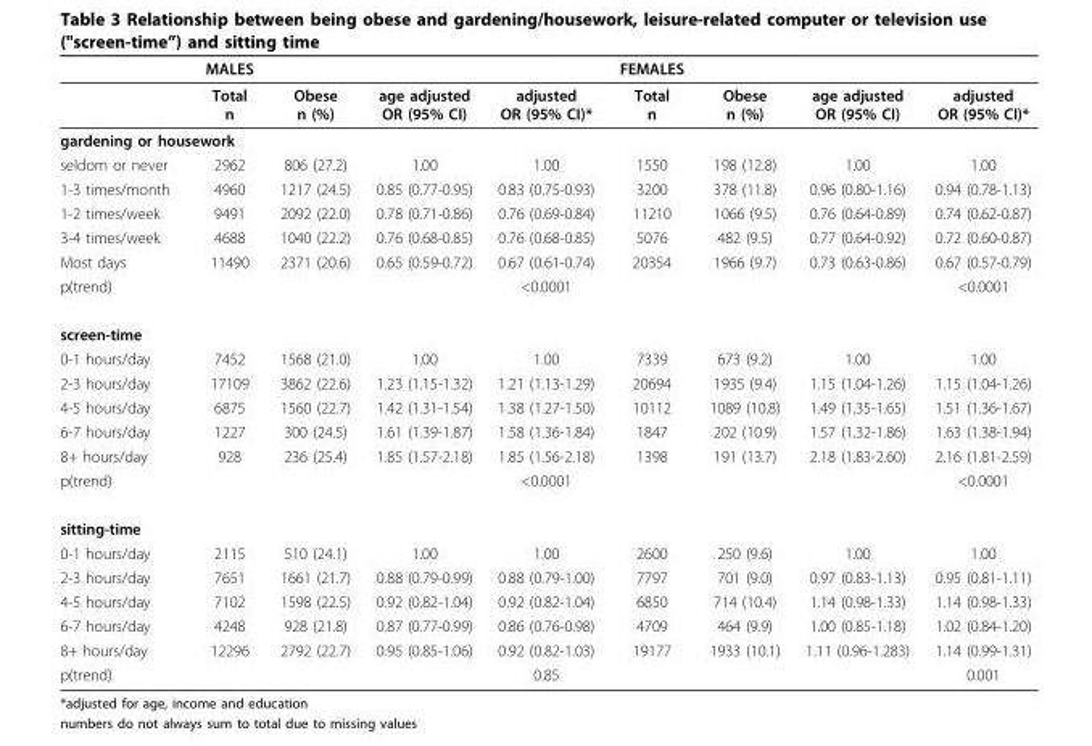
<table><thead><tr><td></td><td>MALES</td><td></td><td></td><td></td><td>FEMALES</td><td></td><td></td><td></td></tr></thead><tbody><tr><td></td><td>Total n</td><td>Obese n (%)</td><td>age adjusted OR (95% CI)</td><td>adjusted OR (95% CI)*</td><td>Total n</td><td>Obese n (%)</td><td>age adjusted OR (95% CI)</td><td>adjusted OR (95% CI)*</td></tr><tr><td colspan="9">gardening or housework</td></tr><tr><td>seldom or never</td><td>2962</td><td>806 (27.2)</td><td>1.00</td><td>1.00</td><td>1550</td><td>198 (12.8)</td><td>1.00</td><td>1.00</td></tr><tr><td>1-3 times/month</td><td>4960</td><td>1217 (24.5)</td><td>0.85 (0.77-0.95)</td><td>0.83 (0.75-0.93)</td><td>3200</td><td>378 (11.8)</td><td>0.96 (0.80-1.16)</td><td>0.94 (0.78-1.13)</td></tr><tr><td>1-2 times/week</td><td>9491</td><td>2092 (22.0)</td><td>0.78 (0.71-0.86)</td><td>0.76 (0.69-0.84)</td><td>11210</td><td>1066 (9.5)</td><td>0.76 (0.64-0.89)</td><td>0.74 (0.62-0.87)</td></tr><tr><td>3-4 times/week</td><td>4688</td><td>1040 (22.2)</td><td>0.76 (0.68-0.85)</td><td>0.76 (0.68-0.85)</td><td>5076</td><td>482 (9.5)</td><td>0.77 (0.64-0.92)</td><td>0.72 (0.60-0.87)</td></tr><tr><td>Most days</td><td>11490</td><td>2371 (20.6)</td><td>0.65 (0.59-0.72)</td><td>0.67 (0.61-0.74)</td><td>20354</td><td>1966 (9.7)</td><td>0.73 (0.63-0.86)</td><td>0.67 (0.57-0.79)</td></tr><tr><td>p(trend)</td><td></td><td></td><td></td><td>&lt;0.0001</td><td></td><td></td><td></td><td>&lt;0.0001</td></tr><tr><td colspan="9">screen-time</td></tr><tr><td>0-1 hours/day</td><td>7452</td><td>1568 (21.0)</td><td>1.00</td><td>1.00</td><td>7339</td><td>673 (9.2)</td><td>1.00</td><td>1.00</td></tr><tr><td>2-3 hours/day</td><td>17109</td><td>3862 (22.6)</td><td>1.23 (1.15-1.32)</td><td>1.21 (1.13-1.29)</td><td>20694</td><td>1935 (9.4)</td><td>1.15 (1.04-1.26)</td><td>1.15 (1.04-1.26)</td></tr><tr><td>4-5 hours/day</td><td>6875</td><td>1560 (22.7)</td><td>1.42 (1.31-1.54)</td><td>1.38 (1.27-1.50)</td><td>10112</td><td>1089 (10.8)</td><td>1.49 (1.35-1.65)</td><td>1.51 (1.36-1.67)</td></tr><tr><td>6-7 hours/day</td><td>1227</td><td>300 (24.5)</td><td>1.61 (1.39-1.87)</td><td>1.58 (1.36-1.84)</td><td>1847</td><td>202 (10.9)</td><td>1.57 (1.32-1.86)</td><td>1.63 (1.38-1.94)</td></tr><tr><td>8+ hours/day</td><td>928</td><td>236 (25.4)</td><td>1.85 (1.57-2.18)</td><td>1.85 (1.56-2.18)</td><td>1398</td><td>191 (13.7)</td><td>2.18 (1.83-2.60)</td><td>2.16 (1.81-2.59)</td></tr><tr><td>p(trend)</td><td></td><td></td><td></td><td>&lt;0.0001</td><td></td><td></td><td></td><td>&lt;0.0001</td></tr><tr><td colspan="9">sitting-time</td></tr><tr><td>0-1 hours/day</td><td>2115</td><td>510 (24.1)</td><td>1.00</td><td>1.00</td><td>2600</td><td>250 (9.6)</td><td>1.00</td><td>1.00</td></tr><tr><td>2-3 hours/day</td><td>7651</td><td>1661 (21.7)</td><td>0.88 (0.79-0.99)</td><td>0.88 (0.79-1.00)</td><td>7797</td><td>701 (9.0)</td><td>0.97 (0.83-1.13)</td><td>0.95 (0.81-1.11)</td></tr><tr><td>4-5 hours/day</td><td>7102</td><td>1598 (22.5)</td><td>0.92 (0.82-1.04)</td><td>0.92 (0.82-1.04)</td><td>6850</td><td>714 (10.4)</td><td>1.14 (0.98-1.33)</td><td>1.14 (0.98-1.33)</td></tr><tr><td>6-7 hours/day</td><td>4248</td><td>928 (21.8)</td><td>0.87 (0.77-0.99)</td><td>0.86 (0.76-0.98)</td><td>4709</td><td>464 (9.9)</td><td>1.00 (0.85-1.18)</td><td>1.02 (0.84-1.20)</td></tr><tr><td>8+ hours/day</td><td>12296</td><td>2792 (22.7)</td><td>0.95 (0.85-1.06)</td><td>0.92 (0.82-1.03)</td><td>19177</td><td>1933 (10.1)</td><td>1.11 (0.96-1.283)</td><td>1.14 (0.99-1.31)</td></tr><tr><td>p(trend)</td><td></td><td></td><td></td><td>0.85</td><td></td><td></td><td></td><td>0.001</td></tr></tbody></table>